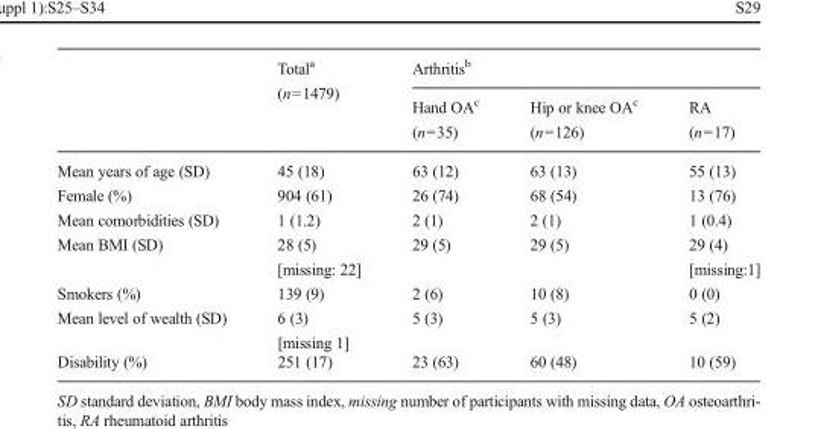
<table><thead><tr><td rowspan="2"></td><td rowspan="2">Total<sup>a</sup> (n=1479)</td><td colspan="3">Arthritis<sup>b</sup></td></tr><tr><td>Hand OA<sup>c</sup> (n=35)</td><td>Hip or knee OA<sup>c</sup> (n=126)</td><td>RA (n=17)</td></tr></thead><tbody><tr><td>Mean years of age (SD)</td><td>45 (18)</td><td>63 (12)</td><td>63 (13)</td><td>55 (13)</td></tr><tr><td>Female (%)</td><td>904 (61)</td><td>26 (74)</td><td>68 (54)</td><td>13 (76)</td></tr><tr><td>Mean comorbidities (SD)</td><td>1 (1.2)</td><td>2 (1)</td><td>2 (1)</td><td>1 (0.4)</td></tr><tr><td>Mean BMI (SD)</td><td>28 (5) [missing: 22]</td><td>29 (5)</td><td>29 (5)</td><td>29 (4) [missing:1]</td></tr><tr><td>Smokers (%)</td><td>139 (9)</td><td>2 (6)</td><td>10 (8)</td><td>0 (0)</td></tr><tr><td>Mean level of wealth (SD)</td><td>6 (3) [missing 1]</td><td>5 (3)</td><td>5 (3)</td><td>5 (2)</td></tr><tr><td>Disability (%)</td><td>251 (17)</td><td>23 (63)</td><td>60 (48)</td><td>10 (59)</td></tr></tbody></table>